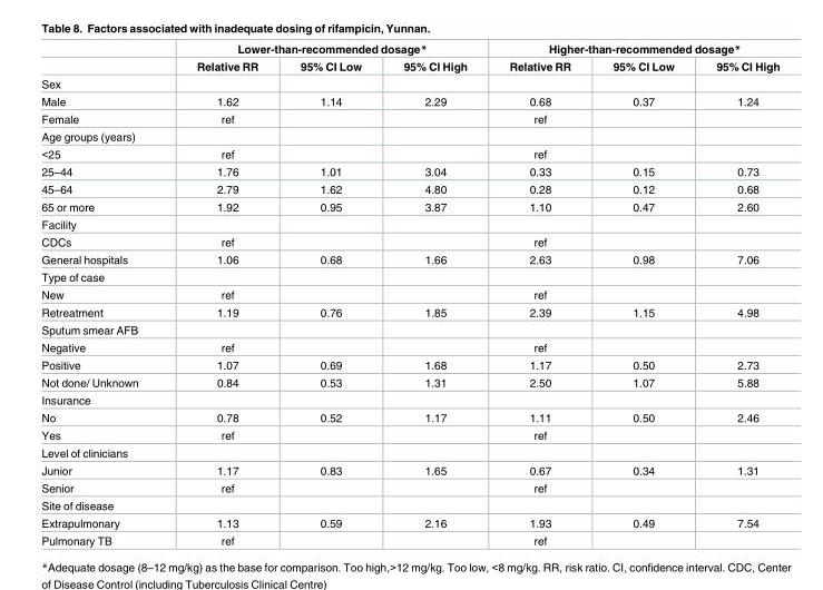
<table><thead><tr><td rowspan="2"></td><td colspan="3">Lower-than-recommended dosage*</td><td colspan="3">Higher-than-recommended dosage*</td></tr><tr><td>Relative RR</td><td>95% CI Low</td><td>95% CI High</td><td>Relative RR</td><td>95% CI Low</td><td>95% CI High</td></tr></thead><tbody><tr><td colspan="7">Sex</td></tr><tr><td>Male</td><td>1.62</td><td>1.14</td><td>2.29</td><td>0.68</td><td>0.37</td><td>1.24</td></tr><tr><td>Female</td><td>ref</td><td></td><td></td><td>ref</td><td></td><td></td></tr><tr><td colspan="7">Age groups (years)</td></tr><tr><td>&lt;25</td><td>ref</td><td></td><td></td><td>ref</td><td></td><td></td></tr><tr><td>25–44</td><td>1.76</td><td>1.01</td><td>3.04</td><td>0.33</td><td>0.15</td><td>0.73</td></tr><tr><td>45–64</td><td>2.79</td><td>1.62</td><td>4.80</td><td>0.28</td><td>0.12</td><td>0.68</td></tr><tr><td>65 or more</td><td>1.92</td><td>0.95</td><td>3.87</td><td>1.10</td><td>0.47</td><td>2.60</td></tr><tr><td colspan="7">Facility</td></tr><tr><td>CDCs</td><td>ref</td><td></td><td></td><td>ref</td><td></td><td></td></tr><tr><td>General hospitals</td><td>1.06</td><td>0.68</td><td>1.66</td><td>2.63</td><td>0.98</td><td>7.06</td></tr><tr><td colspan="7">Type of case</td></tr><tr><td>New</td><td>ref</td><td></td><td></td><td>ref</td><td></td><td></td></tr><tr><td>Retreatment</td><td>1.19</td><td>0.76</td><td>1.85</td><td>2.39</td><td>1.15</td><td>4.98</td></tr><tr><td colspan="7">Sputum smear AFB</td></tr><tr><td>Negative</td><td>ref</td><td></td><td></td><td>ref</td><td></td><td></td></tr><tr><td>Positive</td><td>1.07</td><td>0.69</td><td>1.68</td><td>1.17</td><td>0.50</td><td>2.73</td></tr><tr><td>Not done/ Unknown</td><td>0.84</td><td>0.53</td><td>1.31</td><td>2.50</td><td>1.07</td><td>5.88</td></tr><tr><td colspan="7">Insurance</td></tr><tr><td>No</td><td>0.78</td><td>0.52</td><td>1.17</td><td>1.11</td><td>0.50</td><td>2.46</td></tr><tr><td>Yes</td><td>ref</td><td></td><td></td><td>ref</td><td></td><td></td></tr><tr><td colspan="7">Level of clinicians</td></tr><tr><td>Junior</td><td>1.17</td><td>0.83</td><td>1.65</td><td>0.67</td><td>0.34</td><td>1.31</td></tr><tr><td>Senior</td><td>ref</td><td></td><td></td><td>ref</td><td></td><td></td></tr><tr><td colspan="7">Site of disease</td></tr><tr><td>Extrapulmonary</td><td>1.13</td><td>0.59</td><td>2.16</td><td>1.93</td><td>0.49</td><td>7.54</td></tr><tr><td>Pulmonary TB</td><td>ref</td><td></td><td></td><td>ref</td><td></td><td></td></tr></tbody></table>